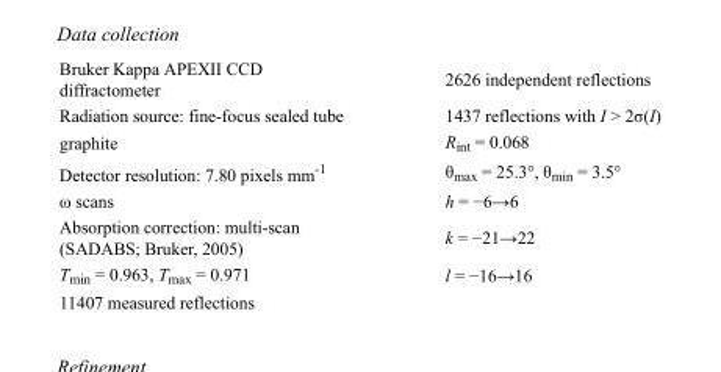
<table><tbody><tr><td>Bruker Kappa APEXII CCD diffractometer</td><td>2626 independent reflections</td></tr><tr><td>Radiation source: fine-focus sealed tube</td><td>1437 reflections with I &gt; 2σ(I)</td></tr><tr><td>graphite</td><td>R<sub>int</sub> = 0.068</td></tr><tr><td>Detector resolution: 7.80 pixels mm<sup>-1</sup></td><td>θ<sub>max</sub> = 25.3°, θ<sub>min</sub> = 3.5°</td></tr><tr><td>ω scans</td><td>h = −6→6</td></tr><tr><td>Absorption correction: multi-scan (SADABS; Bruker, 2005)</td><td>k = −21→22</td></tr><tr><td>T<sub>min</sub> = 0.963, T<sub>max</sub> = 0.971</td><td>l = −16→16</td></tr><tr><td>11407 measured reflections</td><td></td></tr></tbody></table>